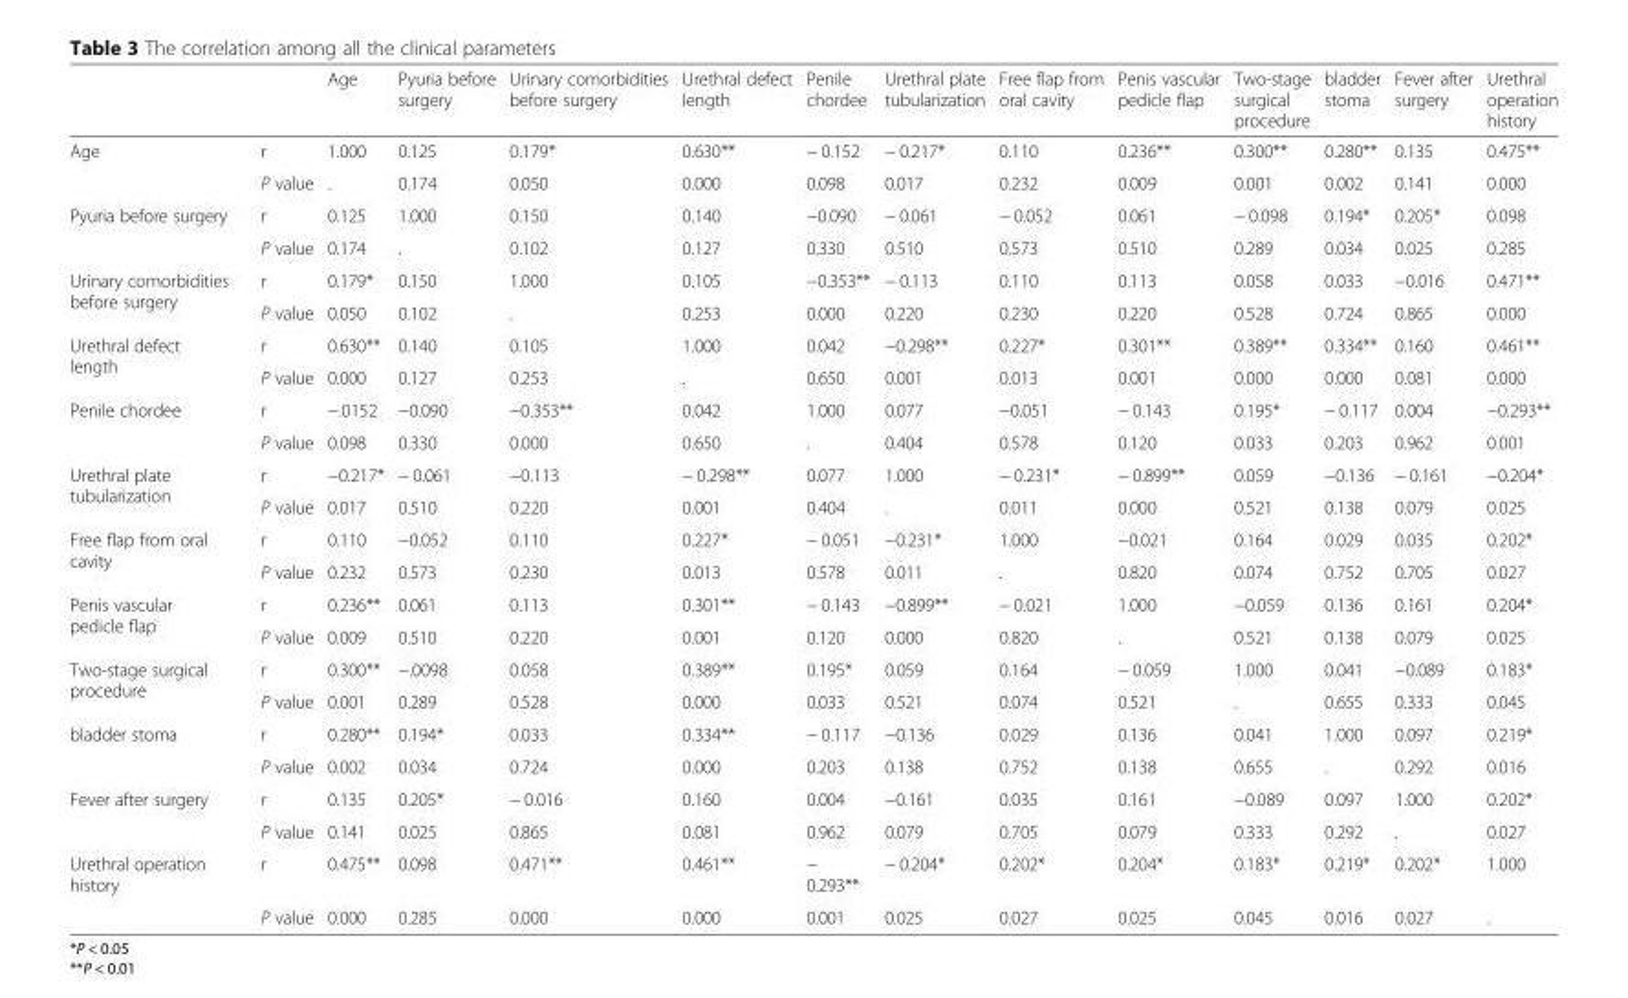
<table><thead><tr><td></td><td></td><td>Age</td><td>Pyuria before surgery</td><td>Urinary comorbidities before surgery</td><td>Urethral defect length</td><td>Penile chordee</td><td>Urethral plate tubularization</td><td>Free flap from oral cavity</td><td>Penis vascular pedicle flap</td><td>Two-stage surgical procedure</td><td>bladder stoma</td><td>Fever after surgery</td><td>Urethral operation history</td></tr></thead><tbody><tr><td rowspan="2">Age</td><td>r</td><td>1.000</td><td>0.125</td><td>0.179*</td><td>0.630**</td><td>− 0.152</td><td>− 0.217*</td><td>0.110</td><td>0.236**</td><td>0.300**</td><td>0.280**</td><td>0.135</td><td>0.475**</td></tr><tr><td>P value</td><td>.</td><td>0.174</td><td>0.050</td><td>0.000</td><td>0.098</td><td>0.017</td><td>0.232</td><td>0.009</td><td>0.001</td><td>0.002</td><td>0.141</td><td>0.000</td></tr><tr><td rowspan="2">Pyuria before surgery</td><td>r</td><td>0.125</td><td>1.000</td><td>0.150</td><td>0.140</td><td>−0.090</td><td>− 0.061</td><td>− 0.052</td><td>0.061</td><td>− 0.098</td><td>0.194*</td><td>0.205*</td><td>0.098</td></tr><tr><td>P value</td><td>0.174</td><td>.</td><td>0.102</td><td>0.127</td><td>0.330</td><td>0.510</td><td>0.573</td><td>0.510</td><td>0.289</td><td>0.034</td><td>0.025</td><td>0.285</td></tr><tr><td rowspan="2">Urinary comorbidities before surgery</td><td>r</td><td>0.179*</td><td>0.150</td><td>1.000</td><td>0.105</td><td>−0.353**</td><td>− 0.113</td><td>0.110</td><td>0.113</td><td>0.058</td><td>0.033</td><td>−0.016</td><td>0.471**</td></tr><tr><td>P value</td><td>0.050</td><td>0.102</td><td>.</td><td>0.253</td><td>0.000</td><td>0.220</td><td>0.230</td><td>0.220</td><td>0.528</td><td>0.724</td><td>0.865</td><td>0.000</td></tr><tr><td rowspan="2">Urethral defect length</td><td>r</td><td>0.630**</td><td>0.140</td><td>0.105</td><td>1.000</td><td>0.042</td><td>−0.298**</td><td>0.227*</td><td>0.301**</td><td>0.389**</td><td>0.334**</td><td>0.160</td><td>0.461**</td></tr><tr><td>P value</td><td>0.000</td><td>0.127</td><td>0.253</td><td>.</td><td>0.650</td><td>0.001</td><td>0.013</td><td>0.001</td><td>0.000</td><td>0.000</td><td>0.081</td><td>0.000</td></tr><tr><td rowspan="2">Penile chordee</td><td>r</td><td>−.0152</td><td>−0.090</td><td>−0.353**</td><td>0.042</td><td>1.000</td><td>0.077</td><td>−0.051</td><td>− 0.143</td><td>0.195*</td><td>− 0.117</td><td>0.004</td><td>−0.293**</td></tr><tr><td>P value</td><td>0.098</td><td>0.330</td><td>0.000</td><td>0.650</td><td>.</td><td>0.404</td><td>0.578</td><td>0.120</td><td>0.033</td><td>0.203</td><td>0.962</td><td>0.001</td></tr><tr><td rowspan="2">Urethral plate tubularization</td><td>r</td><td>−0.217*</td><td>− 0.061</td><td>−0.113</td><td>− 0.298**</td><td>0.077</td><td>1.000</td><td>− 0.231*</td><td>− 0.899**</td><td>0.059</td><td>−0.136</td><td>− 0.161</td><td>−0.204*</td></tr><tr><td>P value</td><td>0.017</td><td>0.510</td><td>0.220</td><td>0.001</td><td>0.404</td><td>.</td><td>0.011</td><td>0.000</td><td>0.521</td><td>0.138</td><td>0.079</td><td>0.025</td></tr><tr><td rowspan="2">Free flap from oral cavity</td><td>r</td><td>0.110</td><td>−0.052</td><td>0.110</td><td>0.227*</td><td>− 0.051</td><td>−0.231*</td><td>1.000</td><td>−0.021</td><td>0.164</td><td>0.029</td><td>0.035</td><td>0.202*</td></tr><tr><td>P value</td><td>0.232</td><td>0.573</td><td>0.230</td><td>0.013</td><td>0.578</td><td>0.011</td><td>.</td><td>0.820</td><td>0.074</td><td>0.752</td><td>0.705</td><td>0.027</td></tr><tr><td rowspan="2">Penis vascular pedicle flap</td><td>r</td><td>0.236**</td><td>0.061</td><td>0.113</td><td>0.301**</td><td>− 0.143</td><td>−0.899**</td><td>− 0.021</td><td>1.000</td><td>−0.059</td><td>0.136</td><td>0.161</td><td>0.204*</td></tr><tr><td>P value</td><td>0.009</td><td>0.510</td><td>0.220</td><td>0.001</td><td>0.120</td><td>0.000</td><td>0.820</td><td>.</td><td>0.521</td><td>0.138</td><td>0.079</td><td>0.025</td></tr><tr><td rowspan="2">Two-stage surgical procedure</td><td>r</td><td>0.300**</td><td>−.0098</td><td>0.058</td><td>0.389**</td><td>0.195*</td><td>0.059</td><td>0.164</td><td>− 0.059</td><td>1.000</td><td>0.041</td><td>−0.089</td><td>0.183*</td></tr><tr><td>P value</td><td>0.001</td><td>0.289</td><td>0.528</td><td>0.000</td><td>0.033</td><td>0.521</td><td>0.074</td><td>0.521</td><td>.</td><td>0.655</td><td>0.333</td><td>0.045</td></tr><tr><td rowspan="2">bladder stoma</td><td>r</td><td>0.280**</td><td>0.194*</td><td>0.033</td><td>0.334**</td><td>− 0.117</td><td>−0.136</td><td>0.029</td><td>0.136</td><td>0.041</td><td>1.000</td><td>0.097</td><td>0.219*</td></tr><tr><td>P value</td><td>0.002</td><td>0.034</td><td>0.724</td><td>0.000</td><td>0.203</td><td>0.138</td><td>0.752</td><td>0.138</td><td>0.655</td><td>.</td><td>0.292</td><td>0.016</td></tr><tr><td rowspan="2">Fever after surgery</td><td>r</td><td>0.135</td><td>0.205*</td><td>− 0.016</td><td>0.160</td><td>0.004</td><td>−0.161</td><td>0.035</td><td>0.161</td><td>−0.089</td><td>0.097</td><td>1.000</td><td>0.202*</td></tr><tr><td>P value</td><td>0.141</td><td>0.025</td><td>0.865</td><td>0.081</td><td>0.962</td><td>0.079</td><td>0.705</td><td>0.079</td><td>0.333</td><td>0.292</td><td>.</td><td>0.027</td></tr><tr><td rowspan="2">Urethral operation history</td><td>r</td><td>0.475**</td><td>0.098</td><td>0.471**</td><td>0.461**</td><td>− 0.293**</td><td>− 0.204*</td><td>0.202*</td><td>0.204*</td><td>0.183*</td><td>0.219*</td><td>0.202*</td><td>1.000</td></tr><tr><td>P value</td><td>0.000</td><td>0.285</td><td>0.000</td><td>0.000</td><td>0.001</td><td>0.025</td><td>0.027</td><td>0.025</td><td>0.045</td><td>0.016</td><td>0.027</td><td>.</td></tr></tbody></table>